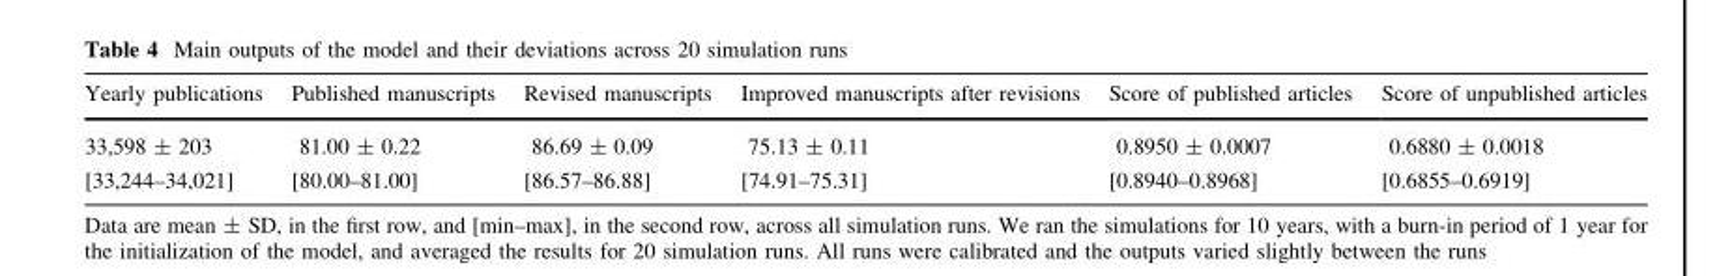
<table><thead><tr><td>Yearly publications</td><td>Published manuscripts</td><td>Revised manuscripts</td><td>Improved manuscripts after revisions</td><td>Score of published articles</td><td>Score of unpublished articles</td></tr></thead><tbody><tr><td>33,598 ± 203</td><td>81.00 ± 0.22</td><td>86.69 ± 0.09</td><td>75.13 ± 0.11</td><td>0.8950 ± 0.0007</td><td>0.6880 ± 0.0018</td></tr><tr><td>[33,244–34,021]</td><td>[80.00–81.00]</td><td>[86.57–86.88]</td><td>[74.91–75.31]</td><td>[0.8940–0.8968]</td><td>[0.6855–0.6919]</td></tr></tbody></table>